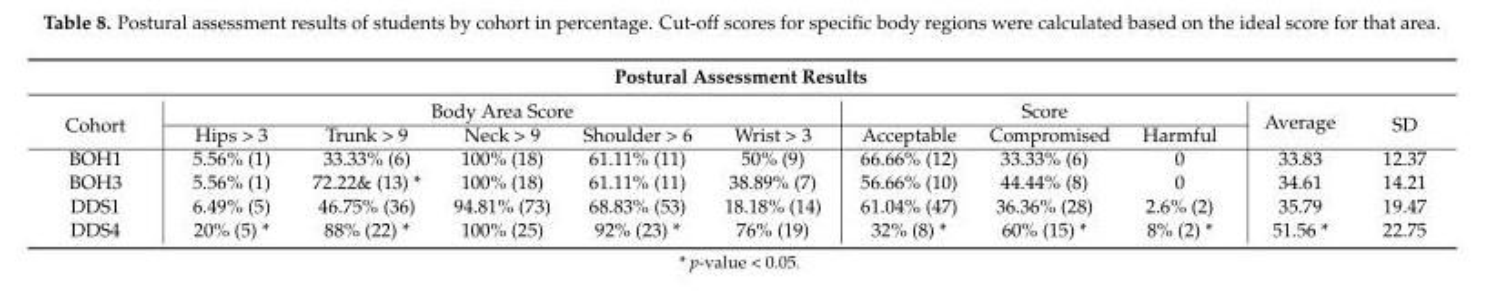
<table><thead><tr><td colspan="11">Postural Assessment Results</td></tr><tr><td rowspan="2">Cohort</td><td colspan="5">Body Area Score</td><td colspan="3">Score</td><td rowspan="2">Average</td><td rowspan="2">SD</td></tr><tr><td>Hips &gt; 3</td><td>Trunk &gt; 9</td><td>Neck &gt; 9</td><td>Shoulder &gt; 6</td><td>Wrist &gt; 3</td><td>Acceptable</td><td>Compromised</td><td>Harmful</td></tr></thead><tbody><tr><td>BOH1</td><td>5.56% (1)</td><td>33.33% (6)</td><td>100% (18)</td><td>61.11% (11)</td><td>50% (9)</td><td>66.66% (12)</td><td>33.33% (6)</td><td>0</td><td>33.83</td><td>12.37</td></tr><tr><td>BOH3</td><td>5.56% (1)</td><td>72.22&amp; (13) *</td><td>100% (18)</td><td>61.11% (11)</td><td>38.89% (7)</td><td>56.66% (10)</td><td>44.44% (8)</td><td>0</td><td>34.61</td><td>14.21</td></tr><tr><td>DDS1</td><td>6.49% (5)</td><td>46.75% (36)</td><td>94.81% (73)</td><td>68.83% (53)</td><td>18.18% (14)</td><td>61.04% (47)</td><td>36.36% (28)</td><td>2.6% (2)</td><td>35.79</td><td>19.47</td></tr><tr><td>DDS4</td><td>20% (5) *</td><td>88% (22) *</td><td>100% (25)</td><td>92% (23) *</td><td>76% (19)</td><td>32% (8) *</td><td>60% (15) *</td><td>8% (2) *</td><td>51.56 *</td><td>22.75</td></tr></tbody></table>